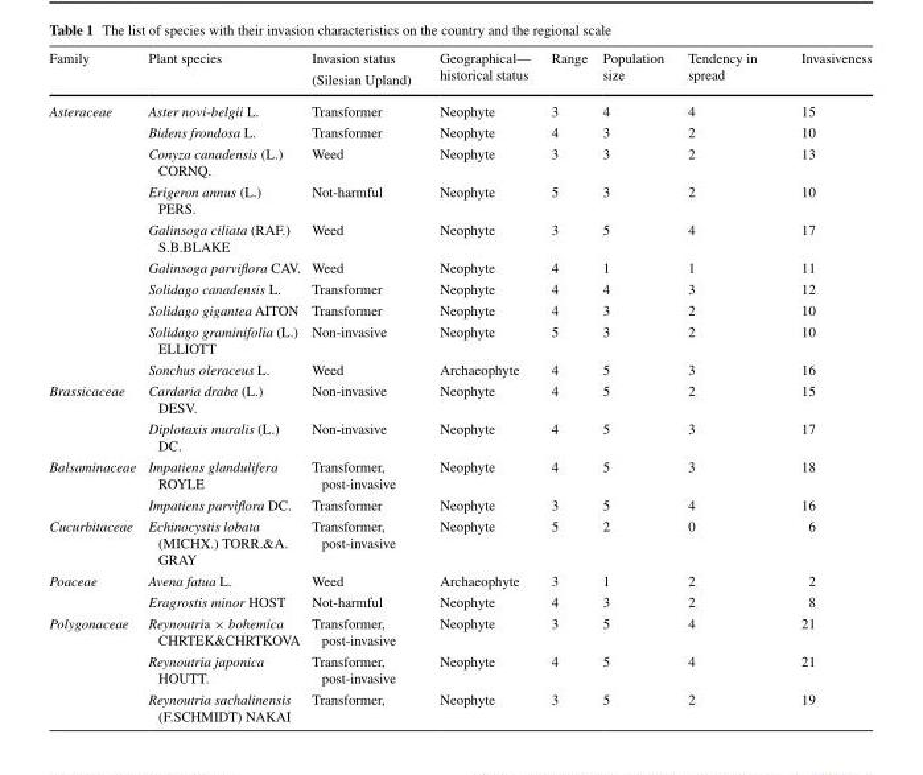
<table><thead><tr><td rowspan="2">Family</td><td rowspan="2">Plant species</td><td rowspan="2">Invasion status (Silesian Upland)</td><td rowspan="2">Geographical— historical status</td><td rowspan="2">Range</td><td rowspan="2">Population size</td><td rowspan="2">Tendency in spread</td><td rowspan="2">Invasiveness</td></tr><tr></tr></thead><tbody><tr><td rowspan="10">Asteraceae</td><td>Aster novi-belgii L.</td><td>Transformer</td><td>Neophyte</td><td>3</td><td>4</td><td>4</td><td>15</td></tr><tr><td>Bidens frondosa L.</td><td>Transformer</td><td>Neophyte</td><td>4</td><td>3</td><td>2</td><td>10</td></tr><tr><td>Conyza canadensis (L.) CORNQ.</td><td>Weed</td><td>Neophyte</td><td>3</td><td>3</td><td>2</td><td>13</td></tr><tr><td>Erigeron annus (L.) PERS.</td><td>Not-harmful</td><td>Neophyte</td><td>5</td><td>3</td><td>2</td><td>10</td></tr><tr><td>Galinsoga ciliata (RAF.) S.B.BLAKE</td><td>Weed</td><td>Neophyte</td><td>3</td><td>5</td><td>4</td><td>17</td></tr><tr><td>Galinsoga parviflora CAV.</td><td>Weed</td><td>Neophyte</td><td>4</td><td>1</td><td>1</td><td>11</td></tr><tr><td>Solidago canadensis L.</td><td>Transformer</td><td>Neophyte</td><td>4</td><td>4</td><td>3</td><td>12</td></tr><tr><td>Solidago gigantea AITON</td><td>Transformer</td><td>Neophyte</td><td>4</td><td>3</td><td>2</td><td>10</td></tr><tr><td>Solidago graminifolia (L.) ELLIOTT</td><td>Non-invasive</td><td>Neophyte</td><td>5</td><td>3</td><td>2</td><td>10</td></tr><tr><td>Sonchus oleraceus L.</td><td>Weed</td><td>Archaeophyte</td><td>4</td><td>5</td><td>3</td><td>16</td></tr><tr><td rowspan="2">Brassicaceae</td><td>Cardaria draba (L.) DESV.</td><td>Non-invasive</td><td>Neophyte</td><td>4</td><td>5</td><td>2</td><td>15</td></tr><tr><td>Diplotaxis muralis (L.) DC.</td><td>Non-invasive</td><td>Neophyte</td><td>4</td><td>5</td><td>3</td><td>17</td></tr><tr><td rowspan="2">Balsaminaceae</td><td>Impatiens glandulifera ROYLE</td><td>Transformer, post-invasive</td><td>Neophyte</td><td>4</td><td>5</td><td>3</td><td>18</td></tr><tr><td>Impatiens parviflora DC.</td><td>Transformer</td><td>Neophyte</td><td>3</td><td>5</td><td>4</td><td>16</td></tr><tr><td>Cucurbitaceae</td><td>Echinocystis lobata (MICHX.) TORR.&amp;A. GRAY</td><td>Transformer, post-invasive</td><td>Neophyte</td><td>5</td><td>2</td><td>0</td><td>6</td></tr><tr><td rowspan="2">Poaceae</td><td>Avena fatua L.</td><td>Weed</td><td>Archaeophyte</td><td>3</td><td>1</td><td>2</td><td>2</td></tr><tr><td>Eragrostis minor HOST</td><td>Not-harmful</td><td>Neophyte</td><td>4</td><td>3</td><td>2</td><td>8</td></tr><tr><td rowspan="3">Polygonaceae</td><td>Reynoutria × bohemica CHRTEK&amp;CHRTKOVA</td><td>Transformer, post-invasive</td><td>Neophyte</td><td>3</td><td>5</td><td>4</td><td>21</td></tr><tr><td>Reynoutria japonica HOUTT.</td><td>Transformer, post-invasive</td><td>Neophyte</td><td>4</td><td>5</td><td>4</td><td>21</td></tr><tr><td>Reynoutria sachalinensis (F.SCHMIDT) NAKAI</td><td>Transformer,</td><td>Neophyte</td><td>3</td><td>5</td><td>2</td><td>19</td></tr></tbody></table>